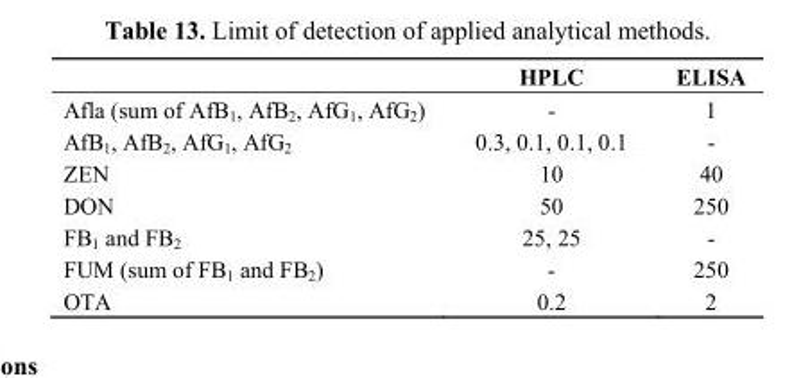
<table><thead><tr><td></td><td>HPLC</td><td>ELISA</td></tr></thead><tbody><tr><td>Afla (sum of AfB<sub>1</sub>, AfB<sub>2</sub>, AfG<sub>1</sub>, AfG<sub>2</sub>)</td><td>-</td><td>1</td></tr><tr><td>AfB<sub>1</sub>, AfB<sub>2</sub>, AfG<sub>1</sub>, AfG<sub>2</sub></td><td>0.3, 0.1, 0.1, 0.1</td><td>-</td></tr><tr><td>ZEN</td><td>10</td><td>40</td></tr><tr><td>DON</td><td>50</td><td>250</td></tr><tr><td>FB<sub>1</sub> and FB<sub>2</sub></td><td>25, 25</td><td>-</td></tr><tr><td>FUM (sum of FB<sub>1</sub> and FB<sub>2</sub>)</td><td>-</td><td>250</td></tr><tr><td>OTA</td><td>0.2</td><td>2</td></tr></tbody></table>